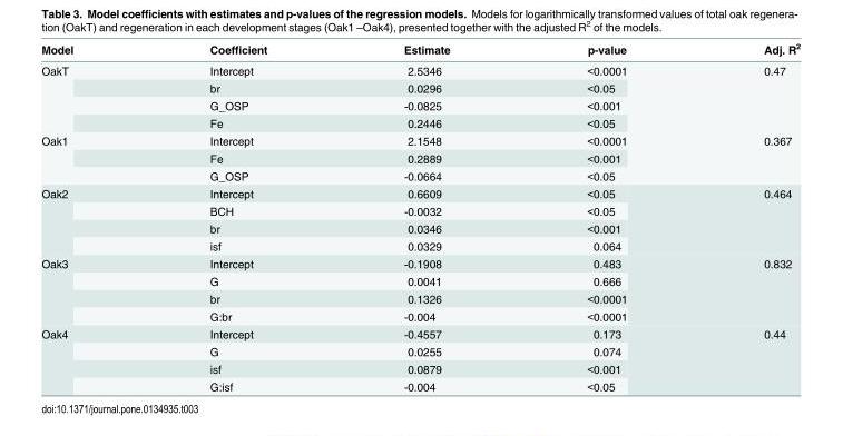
<table><thead><tr><td>Model</td><td>Coefficient</td><td>Estimate</td><td>p-value</td><td>Adj. R<sup>2</sup></td></tr></thead><tbody><tr><td rowspan="4">OakT</td><td>Intercept</td><td>2.5346</td><td>&lt;0.0001</td><td rowspan="4">0.47</td></tr><tr><td>br</td><td>0.0296</td><td>&lt;0.05</td></tr><tr><td>G_OSP</td><td>-0.0825</td><td>&lt;0.001</td></tr><tr><td>Fe</td><td>0.2446</td><td>&lt;0.05</td></tr><tr><td rowspan="3">Oak1</td><td>Intercept</td><td>2.1548</td><td>&lt;0.0001</td><td rowspan="3">0.367</td></tr><tr><td>Fe</td><td>0.2889</td><td>&lt;0.001</td></tr><tr><td>G_OSP</td><td>-0.0664</td><td>&lt;0.05</td></tr><tr><td rowspan="4">Oak2</td><td>Intercept</td><td>0.6609</td><td>&lt;0.05</td><td rowspan="4">0.464</td></tr><tr><td>BCH</td><td>-0.0032</td><td>&lt;0.05</td></tr><tr><td>br</td><td>0.0346</td><td>&lt;0.001</td></tr><tr><td>isf</td><td>0.0329</td><td>0.064</td></tr><tr><td rowspan="4">Oak3</td><td>Intercept</td><td>-0.1908</td><td>0.483</td><td rowspan="4">0.832</td></tr><tr><td>G</td><td>0.0041</td><td>0.666</td></tr><tr><td>br</td><td>0.1326</td><td>&lt;0.0001</td></tr><tr><td>G:br</td><td>-0.004</td><td>&lt;0.0001</td></tr><tr><td rowspan="4">Oak4</td><td>Intercept</td><td>-0.4557</td><td>0.173</td><td rowspan="4">0.44</td></tr><tr><td>G</td><td>0.0255</td><td>0.074</td></tr><tr><td>isf</td><td>0.0879</td><td>&lt;0.001</td></tr><tr><td>G:isf</td><td>-0.004</td><td>&lt;0.05</td></tr></tbody></table>